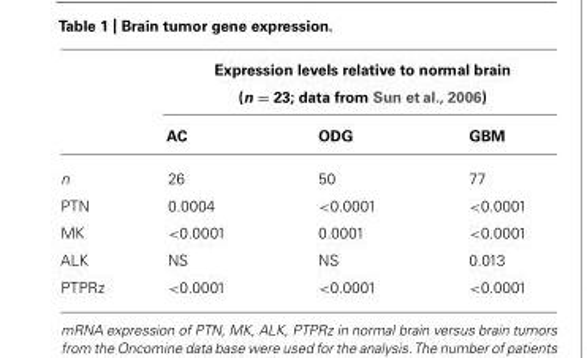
<table><thead><tr><td rowspan="2"></td><td colspan="3">Expression levels relative to normal brain (n = 23; data from Sun et al., 2006)</td></tr><tr><td>AC</td><td>ODG</td><td>GBM</td></tr></thead><tbody><tr><td>n</td><td>26</td><td>50</td><td>77</td></tr><tr><td>PTN</td><td>0.0004</td><td>&lt;0.0001</td><td>&lt;0.0001</td></tr><tr><td>MK</td><td>&lt;0.0001</td><td>0.0001</td><td>&lt;0.0001</td></tr><tr><td>ALK</td><td>NS</td><td>NS</td><td>0.013</td></tr><tr><td>PTPRz</td><td>&lt;0.0001</td><td>&lt;0.0001</td><td>&lt;0.0001</td></tr></tbody></table>